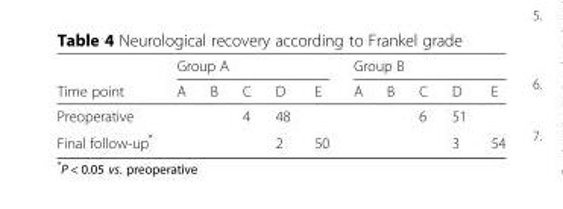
<table><thead><tr><td rowspan="2">Time point</td><td colspan="5">Group A</td><td colspan="5">Group B</td></tr><tr><td>A</td><td>B</td><td>C</td><td>D</td><td>E</td><td>A</td><td>B</td><td>C</td><td>D</td><td>E</td></tr></thead><tbody><tr><td>Preoperative</td><td></td><td></td><td>4</td><td>48</td><td></td><td></td><td></td><td>6</td><td>51</td><td></td></tr><tr><td>Final follow-up*</td><td></td><td></td><td></td><td>2</td><td>50</td><td></td><td></td><td></td><td>3</td><td>54</td></tr></tbody></table>